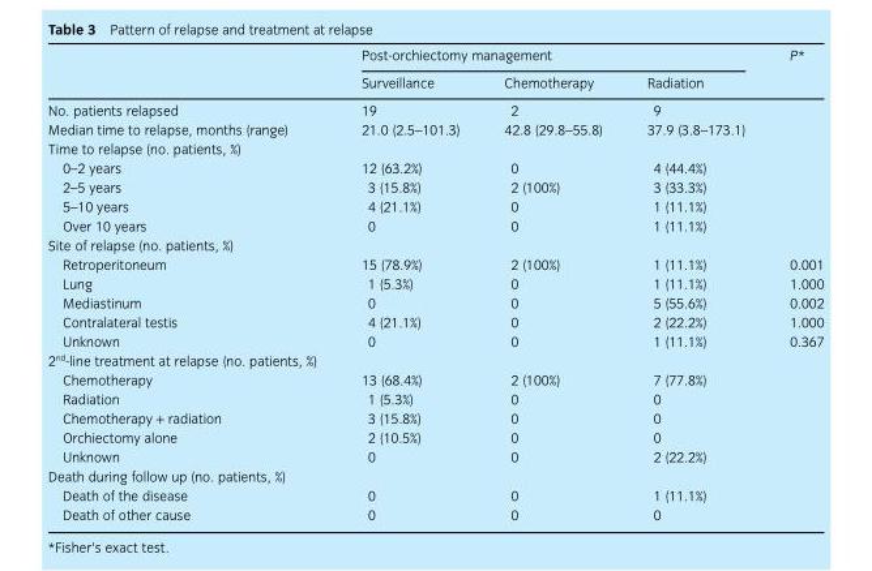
<table><thead><tr><td rowspan="2"></td><td colspan="3">Post-orchiectomy management</td><td rowspan="2">P*</td></tr><tr><td>Surveillance</td><td>Chemotherapy</td><td>Radiation</td></tr></thead><tbody><tr><td>No. patients relapsed</td><td>19</td><td>2</td><td>9</td><td></td></tr><tr><td>Median time to relapse, months (range)</td><td>21.0 (2.5–101.3)</td><td>42.8 (29.8–55.8)</td><td>37.9 (3.8–173.1)</td><td></td></tr><tr><td colspan="5">Time to relapse (no. patients, %)</td></tr><tr><td>0–2 years</td><td>12 (63.2%)</td><td>0</td><td>4 (44.4%)</td><td></td></tr><tr><td>2–5 years</td><td>3 (15.8%)</td><td>2 (100%)</td><td>3 (33.3%)</td><td></td></tr><tr><td>5–10 years</td><td>4 (21.1%)</td><td>0</td><td>1 (11.1%)</td><td></td></tr><tr><td>Over 10 years</td><td>0</td><td>0</td><td>1 (11.1%)</td><td></td></tr><tr><td colspan="5">Site of relapse (no. patients, %)</td></tr><tr><td>Retroperitoneum</td><td>15 (78.9%)</td><td>2 (100%)</td><td>1 (11.1%)</td><td>0.001</td></tr><tr><td>Lung</td><td>1 (5.3%)</td><td>0</td><td>1 (11.1%)</td><td>1.000</td></tr><tr><td>Mediastinum</td><td>0</td><td>0</td><td>5 (55.6%)</td><td>0.002</td></tr><tr><td>Contralateral testis</td><td>4 (21.1%)</td><td>0</td><td>2 (22.2%)</td><td>1.000</td></tr><tr><td>Unknown</td><td>0</td><td>0</td><td>1 (11.1%)</td><td>0.367</td></tr><tr><td colspan="5">2<sup>nd</sup>-line treatment at relapse (no. patients, %)</td></tr><tr><td>Chemotherapy</td><td>13 (68.4%)</td><td>2 (100%)</td><td>7 (77.8%)</td><td></td></tr><tr><td>Radiation</td><td>1 (5.3%)</td><td>0</td><td>0</td><td></td></tr><tr><td>Chemotherapy + radiation</td><td>3 (15.8%)</td><td>0</td><td>0</td><td></td></tr><tr><td>Orchiectomy alone</td><td>2 (10.5%)</td><td>0</td><td>0</td><td></td></tr><tr><td>Unknown</td><td>0</td><td>0</td><td>2 (22.2%)</td><td></td></tr><tr><td colspan="5">Death during follow up (no. patients, %)</td></tr><tr><td>Death of the disease</td><td>0</td><td>0</td><td>1 (11.1%)</td><td></td></tr><tr><td>Death of other cause</td><td>0</td><td>0</td><td>0</td><td></td></tr></tbody></table>